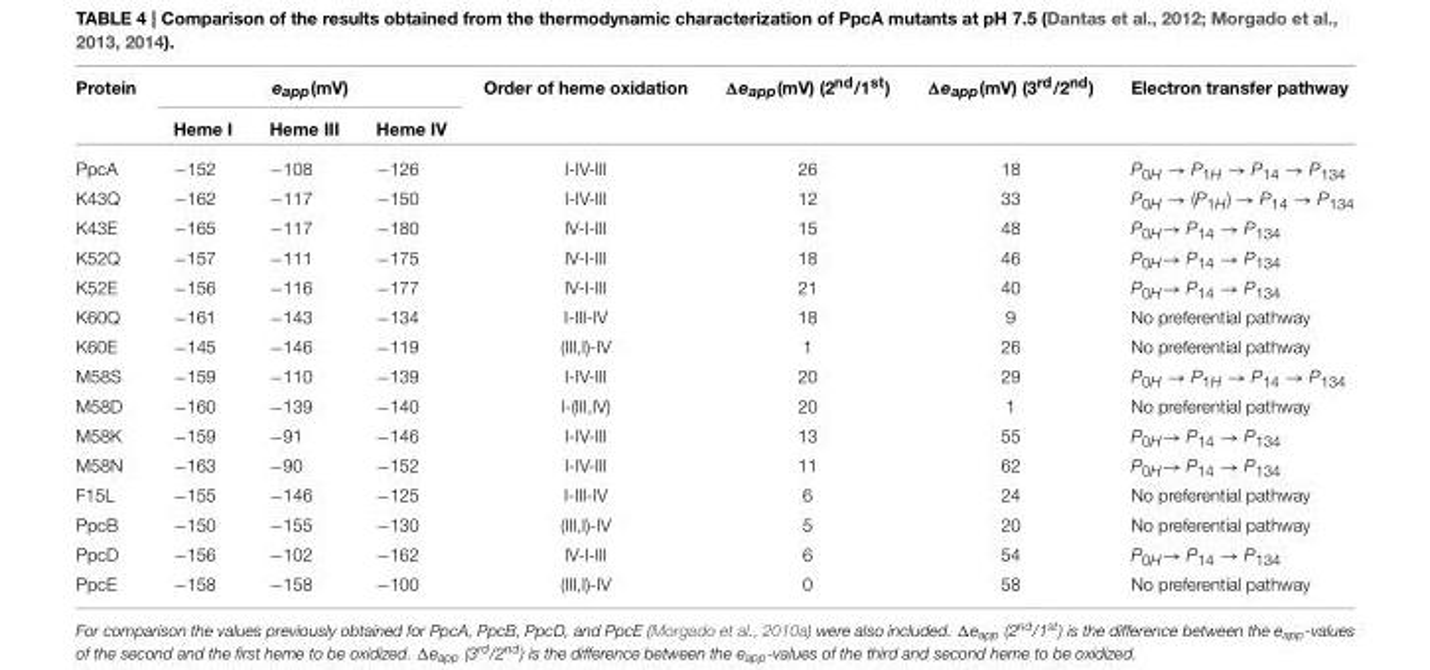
<table><thead><tr><td rowspan="2">Protein</td><td colspan="3">e<sub>app</sub>(mV)</td><td rowspan="2">Order of heme oxidation</td><td rowspan="2">Δe<sub>app</sub>(mV) (2<sup>nd</sup>/1<sup>st</sup>)</td><td rowspan="2">Δe<sub>app</sub>(mV) (3<sup>rd</sup>/2<sup>nd</sup>)</td><td rowspan="2">Electron transfer pathway</td></tr><tr><td>Heme I</td><td>Heme III</td><td>Heme IV</td></tr></thead><tbody><tr><td>PpcA</td><td>−152</td><td>−108</td><td>−126</td><td>I-IV-III</td><td>26</td><td>18</td><td>P<sub>0H</sub> → P<sub>1H</sub> → P<sub>14</sub> → P<sub>134</sub></td></tr><tr><td>K43Q</td><td>−162</td><td>−117</td><td>−150</td><td>I-IV-III</td><td>12</td><td>33</td><td>P0H → (P1H) → P14 → P134</td></tr><tr><td>K43E</td><td>−165</td><td>−117</td><td>−180</td><td>IV-I-III</td><td>15</td><td>48</td><td>P<sub>0H</sub>→ P<sub>14</sub> → P<sub>134</sub></td></tr><tr><td>K52Q</td><td>−157</td><td>−111</td><td>−175</td><td>IV-I-III</td><td>18</td><td>46</td><td>P<sub>0H</sub>→ P<sub>14</sub> → P<sub>134</sub></td></tr><tr><td>K52E</td><td>−156</td><td>−116</td><td>−177</td><td>IV-I-III</td><td>21</td><td>40</td><td>P<sub>0H</sub>→ P<sub>14</sub> → P<sub>134</sub></td></tr><tr><td>K60Q</td><td>−161</td><td>−143</td><td>−134</td><td>I-III-IV</td><td>18</td><td>9</td><td>No preferential pathway</td></tr><tr><td>K60E</td><td>−145</td><td>−146</td><td>−119</td><td>(III,I)-IV</td><td>1</td><td>26</td><td>No preferential pathway</td></tr><tr><td>M58S</td><td>−159</td><td>−110</td><td>−139</td><td>I-IV-III</td><td>20</td><td>29</td><td>P<sub>0H</sub> → P<sub>1H</sub> → P<sub>14</sub> → P<sub>134</sub></td></tr><tr><td>M58D</td><td>−160</td><td>−139</td><td>−140</td><td>I-(III,IV)</td><td>20</td><td>1</td><td>No preferential pathway</td></tr><tr><td>M58K</td><td>−159</td><td>−91</td><td>−146</td><td>I-IV-III</td><td>13</td><td>55</td><td>P<sub>0H</sub>→ P<sub>14</sub> → P<sub>134</sub></td></tr><tr><td>M58N</td><td>−163</td><td>−90</td><td>−152</td><td>I-IV-III</td><td>11</td><td>62</td><td>P<sub>0H</sub>→ P<sub>14</sub> → P<sub>134</sub></td></tr><tr><td>F15L</td><td>−155</td><td>−146</td><td>−125</td><td>I-III-IV</td><td>6</td><td>24</td><td>No preferential pathway</td></tr><tr><td>PpcB</td><td>−150</td><td>−155</td><td>−130</td><td>(III,I)-IV</td><td>5</td><td>20</td><td>No preferential pathway</td></tr><tr><td>PpcD</td><td>−156</td><td>−102</td><td>−162</td><td>IV-I-III</td><td>6</td><td>54</td><td>P<sub>0H</sub>→ P<sub>14</sub> → P<sub>134</sub></td></tr><tr><td>PpcE</td><td>−158</td><td>−158</td><td>−100</td><td>(III,I)-IV</td><td>0</td><td>58</td><td>No preferential pathway</td></tr></tbody></table>